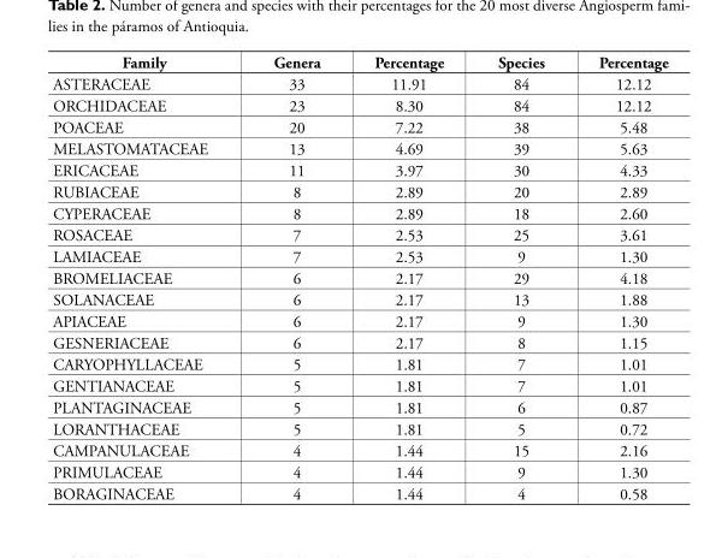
<table><thead><tr><td>Family</td><td>Genera</td><td>Percentage</td><td>Species</td><td>Percentage</td></tr></thead><tbody><tr><td>ASTERACEAE</td><td>33</td><td>11.91</td><td>84</td><td>12.12</td></tr><tr><td>ORCHIDACEAE</td><td>23</td><td>8.30</td><td>84</td><td>12.12</td></tr><tr><td>POACEAE</td><td>20</td><td>7.22</td><td>38</td><td>5.48</td></tr><tr><td>MELASTOMATACEAE</td><td>13</td><td>4.69</td><td>39</td><td>5.63</td></tr><tr><td>ERICACEAE</td><td>11</td><td>3.97</td><td>30</td><td>4.33</td></tr><tr><td>RUBIACEAE</td><td>8</td><td>2.89</td><td>20</td><td>2.89</td></tr><tr><td>CYPERACEAE</td><td>8</td><td>2.89</td><td>18</td><td>2.60</td></tr><tr><td>ROSACEAE</td><td>7</td><td>2.53</td><td>25</td><td>3.61</td></tr><tr><td>LAMIACEAE</td><td>7</td><td>2.53</td><td>9</td><td>1.30</td></tr><tr><td>BROMELIACEAE</td><td>6</td><td>2.17</td><td>29</td><td>4.18</td></tr><tr><td>SOLANACEAE</td><td>6</td><td>2.17</td><td>13</td><td>1.88</td></tr><tr><td>APIACEAE</td><td>6</td><td>2.17</td><td>9</td><td>1.30</td></tr><tr><td>GESNERIACEAE</td><td>6</td><td>2.17</td><td>8</td><td>1.15</td></tr><tr><td>CARYOPHYLLACEAE</td><td>5</td><td>1.81</td><td>7</td><td>1.01</td></tr><tr><td>GENTIANACEAE</td><td>5</td><td>1.81</td><td>7</td><td>1.01</td></tr><tr><td>PLANTAGINACEAE</td><td>5</td><td>1.81</td><td>6</td><td>0.87</td></tr><tr><td>LORANTHACEAE</td><td>5</td><td>1.81</td><td>5</td><td>0.72</td></tr><tr><td>CAMPANULACEAE</td><td>4</td><td>1.44</td><td>15</td><td>2.16</td></tr><tr><td>PRIMULACEAE</td><td>4</td><td>1.44</td><td>9</td><td>1.30</td></tr><tr><td>BORAGINACEAE</td><td>4</td><td>1.44</td><td>4</td><td>0.58</td></tr></tbody></table>